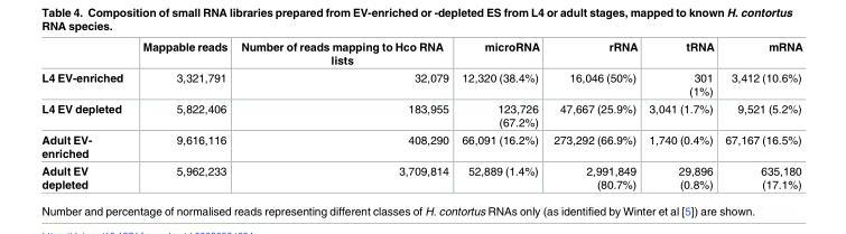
<table><thead><tr><td></td><td>Mappable reads</td><td>Number of reads mapping to Hco RNA lists</td><td>microRNA</td><td>rRNA</td><td>tRNA</td><td>mRNA</td></tr></thead><tbody><tr><td>L4 EV-enriched</td><td>3,321,791</td><td>32,079</td><td>12,320 (38.4%)</td><td>16,046 (50%)</td><td>301 (1%)</td><td>3,412 (10.6%)</td></tr><tr><td>L4 EV depleted</td><td>5,822,406</td><td>183,955</td><td>123,726 (67.2%)</td><td>47,667 (25.9%)</td><td>3,041 (1.7%)</td><td>9,521 (5.2%)</td></tr><tr><td>Adult EV- enriched</td><td>9,616,116</td><td>408,290</td><td>66,091 (16.2%)</td><td>273,292 (66.9%)</td><td>1,740 (0.4%)</td><td>67,167 (16.5%)</td></tr><tr><td>Adult EV depleted</td><td>5,962,233</td><td>3,709,814</td><td>52,889 (1.4%)</td><td>2,991,849 (80.7%)</td><td>29,896 (0.8%)</td><td>635,180 (17.1%)</td></tr></tbody></table>